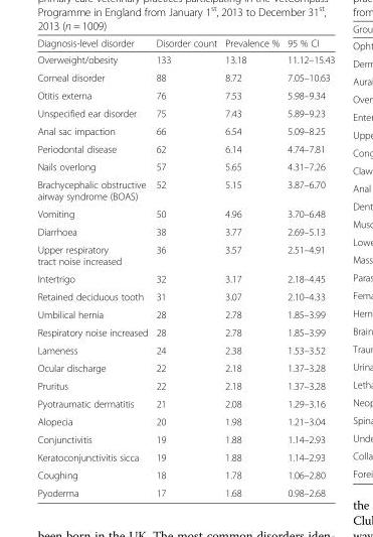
<table><thead><tr><td>Diagnosis-level disorder</td><td>Disorder count</td><td>Prevalence %</td><td>95 % CI</td></tr></thead><tbody><tr><td>Overweight/obesity</td><td>133</td><td>13.18</td><td>11.12–15.43</td></tr><tr><td>Corneal disorder</td><td>88</td><td>8.72</td><td>7.05–10.63</td></tr><tr><td>Otitis externa</td><td>76</td><td>7.53</td><td>5.98–9.34</td></tr><tr><td>Unspecified ear disorder</td><td>75</td><td>7.43</td><td>5.89–9.23</td></tr><tr><td>Anal sac impaction</td><td>66</td><td>6.54</td><td>5.09–8.25</td></tr><tr><td>Periodontal disease</td><td>62</td><td>6.14</td><td>4.74–7.81</td></tr><tr><td>Nails overlong</td><td>57</td><td>5.65</td><td>4.31–7.26</td></tr><tr><td>Brachycephalic obstructive airway syndrome (BOAS)</td><td>52</td><td>5.15</td><td>3.87–6.70</td></tr><tr><td>Vomiting</td><td>50</td><td>4.96</td><td>3.70–6.48</td></tr><tr><td>Diarrhoea</td><td>38</td><td>3.77</td><td>2.69–5.13</td></tr><tr><td>Upper respiratory tract noise increased</td><td>36</td><td>3.57</td><td>2.51–4.91</td></tr><tr><td>Intertrigo</td><td>32</td><td>3.17</td><td>2.18–4.45</td></tr><tr><td>Retained deciduous tooth</td><td>31</td><td>3.07</td><td>2.10–4.33</td></tr><tr><td>Umbilical hernia</td><td>28</td><td>2.78</td><td>1.85–3.99</td></tr><tr><td>Respiratory noise increased</td><td>28</td><td>2.78</td><td>1.85–3.99</td></tr><tr><td>Lameness</td><td>24</td><td>2.38</td><td>1.53–3.52</td></tr><tr><td>Ocular discharge</td><td>22</td><td>2.18</td><td>1.37–3.28</td></tr><tr><td>Pruritus</td><td>22</td><td>2.18</td><td>1.37–3.28</td></tr><tr><td>Pyotraumatic dermatitis</td><td>21</td><td>2.08</td><td>1.29–3.16</td></tr><tr><td>Alopecia</td><td>20</td><td>1.98</td><td>1.21–3.04</td></tr><tr><td>Conjunctivitis</td><td>19</td><td>1.88</td><td>1.14–2.93</td></tr><tr><td>Keratoconjunctivitis sicca</td><td>19</td><td>1.88</td><td>1.14–2.93</td></tr><tr><td>Coughing</td><td>18</td><td>1.78</td><td>1.06–2.80</td></tr><tr><td>Pyoderma</td><td>17</td><td>1.68</td><td>0.98–2.68</td></tr></tbody></table>